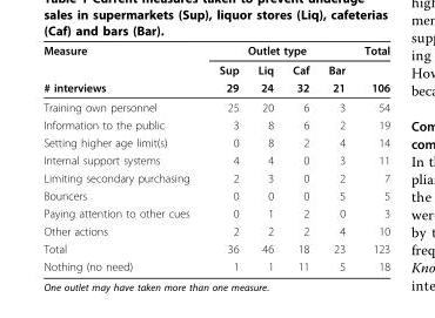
<table><thead><tr><td rowspan="3">Measure # interviews</td><td colspan="4">Outlet type</td><td rowspan="3">Total 106</td></tr><tr><td rowspan="2">Sup 29</td><td rowspan="2">Liq 24</td><td rowspan="2">Caf 32</td><td rowspan="2">Bar 21</td></tr><tr></tr></thead><tbody><tr><td>Training own personnel</td><td>25</td><td>20</td><td>6</td><td>3</td><td>54</td></tr><tr><td>Information to the public</td><td>3</td><td>8</td><td>6</td><td>2</td><td>19</td></tr><tr><td>Setting higher age limit(s)</td><td>0</td><td>8</td><td>2</td><td>4</td><td>14</td></tr><tr><td>Internal support systems</td><td>4</td><td>4</td><td>0</td><td>3</td><td>11</td></tr><tr><td>Limiting secondary purchasing</td><td>2</td><td>3</td><td>0</td><td>2</td><td>7</td></tr><tr><td>Bouncers</td><td>0</td><td>0</td><td>0</td><td>5</td><td>5</td></tr><tr><td>Paying attention to other cues</td><td>0</td><td>1</td><td>2</td><td>0</td><td>3</td></tr><tr><td>Other actions</td><td>2</td><td>2</td><td>2</td><td>4</td><td>10</td></tr><tr><td>Total</td><td>36</td><td>46</td><td>18</td><td>23</td><td>123</td></tr><tr><td>Nothing (no need)</td><td>1</td><td>1</td><td>11</td><td>5</td><td>18</td></tr></tbody></table>